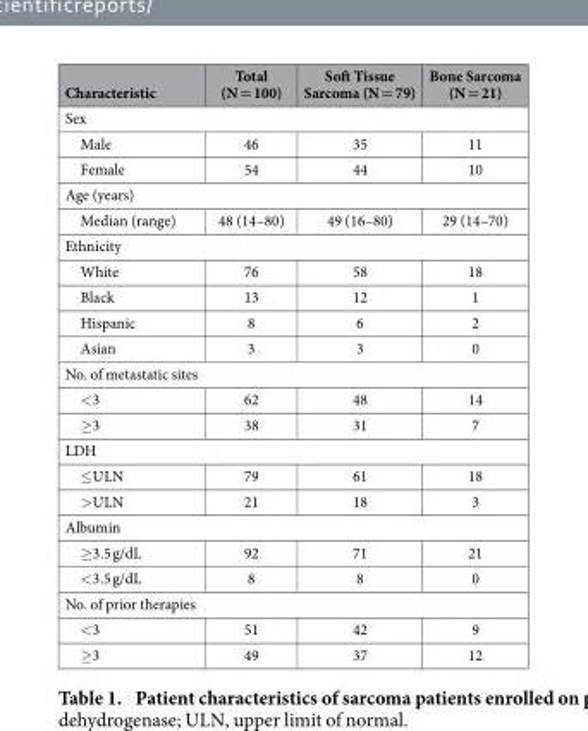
<table><thead><tr><td>Characteristic</td><td>Total (N = 100)</td><td>Soft Tissue Sarcoma (N = 79)</td><td>Bone Sarcoma (N = 21)</td></tr></thead><tbody><tr><td colspan="4">Sex</td></tr><tr><td>Male</td><td>46</td><td>35</td><td>11</td></tr><tr><td>Female</td><td>54</td><td>44</td><td>10</td></tr><tr><td colspan="4">Age (years)</td></tr><tr><td>Median (range)</td><td>48 (14–80)</td><td>49 (16–80)</td><td>29 (14–70)</td></tr><tr><td colspan="4">Ethnicity</td></tr><tr><td>White</td><td>76</td><td>58</td><td>18</td></tr><tr><td>Black</td><td>13</td><td>12</td><td>1</td></tr><tr><td>Hispanic</td><td>8</td><td>6</td><td>2</td></tr><tr><td>Asian</td><td>3</td><td>3</td><td>0</td></tr><tr><td colspan="4">No. of metastatic sites</td></tr><tr><td>&lt; 3</td><td>62</td><td>48</td><td>14</td></tr><tr><td>≥ 3</td><td>38</td><td>31</td><td>7</td></tr><tr><td colspan="4">LDH</td></tr><tr><td>≤ ULN</td><td>79</td><td>61</td><td>18</td></tr><tr><td>&gt; ULN</td><td>21</td><td>18</td><td>3</td></tr><tr><td colspan="4">Albumin</td></tr><tr><td>≥ 3.5 g/dL</td><td>92</td><td>71</td><td>21</td></tr><tr><td>&lt; 3.5 g/dL</td><td>8</td><td>8</td><td>0</td></tr><tr><td colspan="4">No. of prior therapies</td></tr><tr><td>&lt; 3</td><td>51</td><td>42</td><td>9</td></tr><tr><td>≥ 3</td><td>49</td><td>37</td><td>12</td></tr></tbody></table>